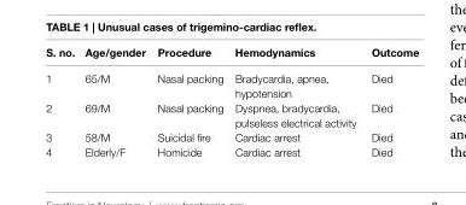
<table><thead><tr><td>S. no.</td><td>Age/gender</td><td>Procedure</td><td>Hemodynamics</td><td>Outcome</td></tr></thead><tbody><tr><td>1</td><td>65/M</td><td>Nasal packing</td><td>Bradycardia, apnea, hypotension</td><td>Died</td></tr><tr><td>2</td><td>69/M</td><td>Nasal packing</td><td>Dyspnea, bradycardia, pulseless electrical activity</td><td>Died</td></tr><tr><td>3</td><td>58/M</td><td>Suicidal fire</td><td>Cardiac arrest</td><td>Died</td></tr><tr><td>4</td><td>Elderly/F</td><td>Homicide</td><td>Cardiac arrest</td><td>Died</td></tr></tbody></table>